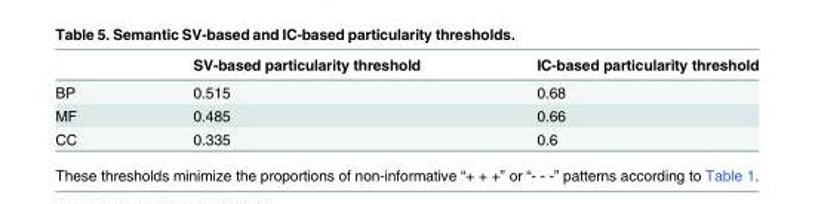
<table><thead><tr><td></td><td>SV-based particularity threshold</td><td>IC-based particularity threshold</td></tr></thead><tbody><tr><td>BP</td><td>0.515</td><td>0.68</td></tr><tr><td>MF</td><td>0.485</td><td>0.66</td></tr><tr><td>CC</td><td>0.335</td><td>0.6</td></tr></tbody></table>